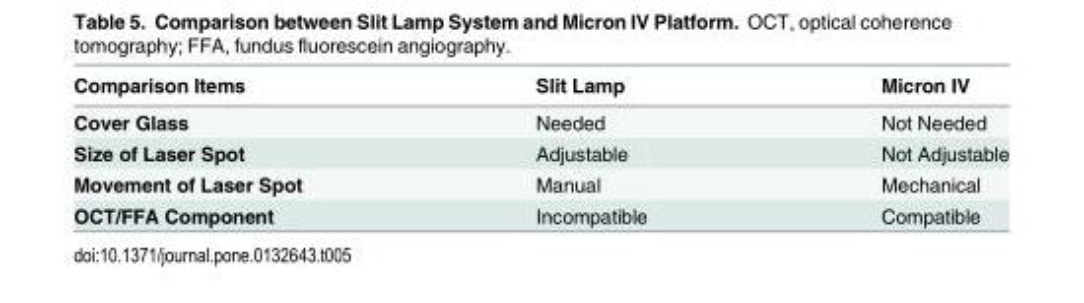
<table><thead><tr><td>Comparison Items</td><td>Slit Lamp</td><td>Micron IV</td></tr></thead><tbody><tr><td>Cover Glass</td><td>Needed</td><td>Not Needed</td></tr><tr><td>Size of Laser Spot</td><td>Adjustable</td><td>Not Adjustable</td></tr><tr><td>Movement of Laser Spot</td><td>Manual</td><td>Mechanical</td></tr><tr><td>OCT/FFA Component</td><td>Incompatible</td><td>Compatible</td></tr></tbody></table>